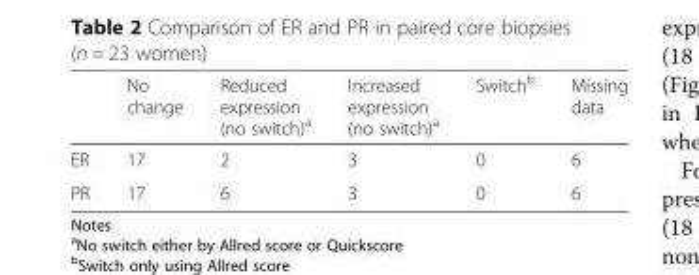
<table><thead><tr><td></td><td>No change</td><td>Reduced expression (no switch)<sup>a</sup></td><td>Increased expression (no switch)<sup>a</sup></td><td>Switch<sup>b</sup></td><td>Missing data</td></tr></thead><tbody><tr><td>ER</td><td>17</td><td>2</td><td>3</td><td>0</td><td>6</td></tr><tr><td>PR</td><td>17</td><td>6</td><td>3</td><td>0</td><td>6</td></tr></tbody></table>